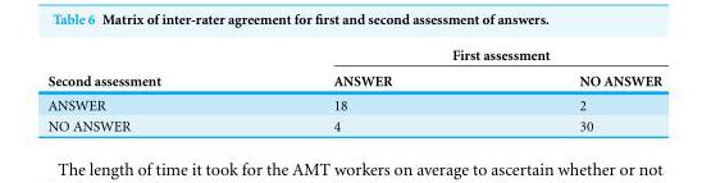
<table><thead><tr><td rowspan="2">Second assessment</td><td colspan="2">First assessment</td></tr><tr><td>ANSWER</td><td>NO ANSWER</td></tr></thead><tbody><tr><td>ANSWER</td><td>18</td><td>2</td></tr><tr><td>NO ANSWER</td><td>4</td><td>30</td></tr></tbody></table>